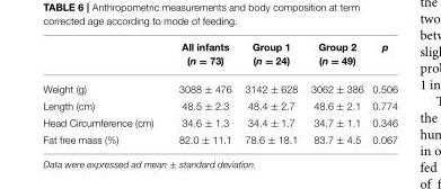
<table><thead><tr><td></td><td>All infants (n = 73)</td><td>Group 1 (n = 24)</td><td>Group 2 (n = 49)</td><td>p</td></tr></thead><tbody><tr><td>Weight (g)</td><td>3088 ± 476</td><td>3142 ± 628</td><td>3062 ± 386</td><td>0.506</td></tr><tr><td>Length (cm)</td><td>48.5 ± 2.3</td><td>48.4 ± 2.7</td><td>48.6 ± 2.1</td><td>0.774</td></tr><tr><td>Head Circumference (cm)</td><td>34.6 ± 1.3</td><td>34.4 ± 1.7</td><td>34.7 ± 1.1</td><td>0.346</td></tr><tr><td>Fat free mass (%)</td><td>82.0 ± 11.1</td><td>78.6 ± 18.1</td><td>83.7 ± 4.5</td><td>0.067</td></tr></tbody></table>